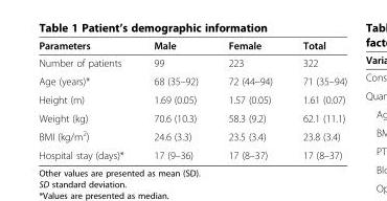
<table><thead><tr><td>Parameters</td><td>Male</td><td>Female</td><td>Total</td></tr></thead><tbody><tr><td>Number of patients</td><td>99</td><td>223</td><td>322</td></tr><tr><td>Age (years)*</td><td>68 (35–92)</td><td>72 (44–94)</td><td>71 (35–94)</td></tr><tr><td>Height (m)</td><td>1.69 (0.05)</td><td>1.57 (0.05)</td><td>1.61 (0.07)</td></tr><tr><td>Weight (kg)</td><td>70.6 (10.3)</td><td>58.3 (9.2)</td><td>62.1 (11.1)</td></tr><tr><td>BMI (kg/m<sup>2</sup>)</td><td>24.6 (3.3)</td><td>23.5 (3.4)</td><td>23.8 (3.4)</td></tr><tr><td>Hospital stay (days)*</td><td>17 (9–36)</td><td>17 (8–37)</td><td>17 (8–37)</td></tr></tbody></table>